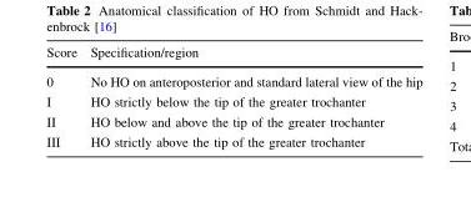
<table><thead><tr><td>Score</td><td>Specification/region</td></tr></thead><tbody><tr><td>0</td><td>No HO on anteroposterior and standard lateral view of the hip</td></tr><tr><td>I</td><td>HO strictly below the tip of the greater trochanter</td></tr><tr><td>II</td><td>HO below and above the tip of the greater trochanter</td></tr><tr><td>III</td><td>HO strictly above the tip of the greater trochanter</td></tr></tbody></table>